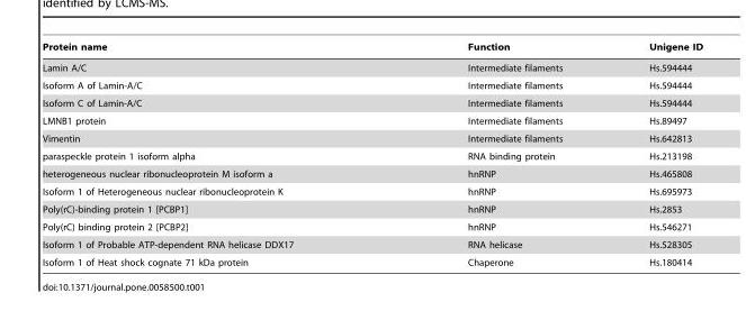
<table><thead><tr><td>Protein name</td><td>Function</td><td>Unigene ID</td></tr></thead><tbody><tr><td>Lamin A/C</td><td>Intermediate filaments</td><td>Hs.594444</td></tr><tr><td>Isoform A of Lamin-A/C</td><td>Intermediate filaments</td><td>Hs.594444</td></tr><tr><td>Isoform C of Lamin-A/C</td><td>Intermediate filaments</td><td>Hs.594444</td></tr><tr><td>LMNB1 protein</td><td>Intermediate filaments</td><td>Hs.89497</td></tr><tr><td>Vimentin</td><td>Intermediate filaments</td><td>Hs.642813</td></tr><tr><td>paraspeckle protein 1 isoform alpha</td><td>RNA binding protein</td><td>Hs.213198</td></tr><tr><td>heterogeneous nuclear ribonucleoprotein M isoform a</td><td>hnRNP</td><td>Hs.465808</td></tr><tr><td>Isoform 1 of Heterogeneous nuclear ribonucleoprotein K</td><td>hnRNP</td><td>Hs.695973</td></tr><tr><td>Poly(rC)-binding protein 1 [PCBP1]</td><td>hnRNP</td><td>Hs.2853</td></tr><tr><td>Poly(rC) binding protein 2 [PCBP2]</td><td>hnRNP</td><td>Hs.546271</td></tr><tr><td>Isoform 1 of Probable ATP-dependent RNA helicase DDX17</td><td>RNA helicase</td><td>Hs.528305</td></tr><tr><td>Isoform 1 of Heat shock cognate 71 kDa protein</td><td>Chaperone</td><td>Hs.180414</td></tr></tbody></table>